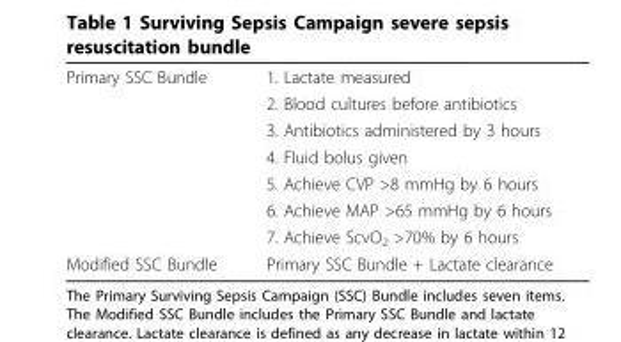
<table><tbody><tr><td rowspan="7">Primary SSC Bundle</td><td>1. Lactate measured</td></tr><tr><td>2. Blood cultures before antibiotics</td></tr><tr><td>3. Antibiotics administered by 3 hours</td></tr><tr><td>4. Fluid bolus given</td></tr><tr><td>5. Achieve CVP &gt;8 mmHg by 6 hours</td></tr><tr><td>6. Achieve MAP &gt;65 mmHg by 6 hours</td></tr><tr><td>7. Achieve ScvO<sub>2</sub> &gt;70% by 6 hours</td></tr><tr><td>Modified SSC Bundle</td><td>Primary SSC Bundle + Lactate clearance</td></tr></tbody></table>